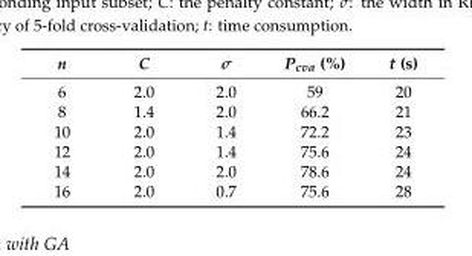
<table><thead><tr><td>n</td><td>C</td><td>σ</td><td>P<sub>cva</sub> (%)</td><td>t (s)</td></tr></thead><tbody><tr><td>6</td><td>2.0</td><td>2.0</td><td>59</td><td>20</td></tr><tr><td>8</td><td>1.4</td><td>2.0</td><td>66.2</td><td>21</td></tr><tr><td>10</td><td>2.0</td><td>1.4</td><td>72.2</td><td>23</td></tr><tr><td>12</td><td>2.0</td><td>1.4</td><td>75.6</td><td>24</td></tr><tr><td>14</td><td>2.0</td><td>2.0</td><td>78.6</td><td>24</td></tr><tr><td>16</td><td>2.0</td><td>0.7</td><td>75.6</td><td>28</td></tr></tbody></table>